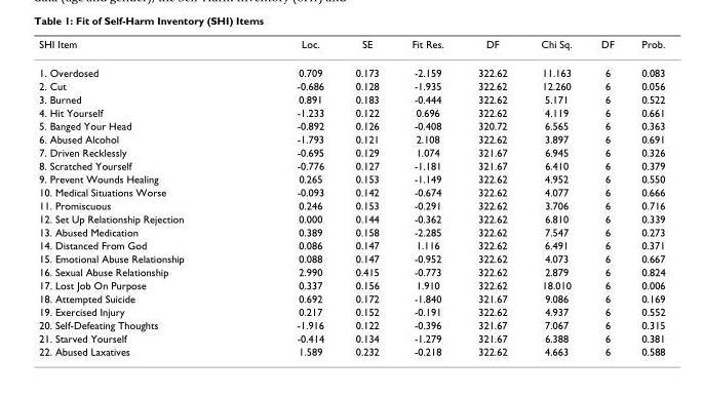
<table><thead><tr><td>SHI Item</td><td>Loc.</td><td>SE</td><td>Fit Res.</td><td>DF</td><td>Chi Sq.</td><td>DF</td><td>Prob.</td></tr></thead><tbody><tr><td>1. Overdosed</td><td>0.709</td><td>0.173</td><td>-2.159</td><td>322.62</td><td>11.163</td><td>6</td><td>0.083</td></tr><tr><td>2. Cut</td><td>-0.686</td><td>0.128</td><td>-1.935</td><td>322.62</td><td>12.260</td><td>6</td><td>0.056</td></tr><tr><td>3. Burned</td><td>0.891</td><td>0.183</td><td>-0.444</td><td>322.62</td><td>5.171</td><td>6</td><td>0.522</td></tr><tr><td>4. Hit Yourself</td><td>-1.233</td><td>0.122</td><td>0.696</td><td>322.62</td><td>4.119</td><td>6</td><td>0.661</td></tr><tr><td>5. Banged Your Head</td><td>-0.892</td><td>0.126</td><td>-0.408</td><td>320.72</td><td>6.565</td><td>6</td><td>0.363</td></tr><tr><td>6. Abused Alcohol</td><td>-1.793</td><td>0.121</td><td>2.108</td><td>322.62</td><td>3.897</td><td>6</td><td>0.691</td></tr><tr><td>7. Driven Recklessly</td><td>-0.695</td><td>0.129</td><td>1.074</td><td>321.67</td><td>6.945</td><td>6</td><td>0.326</td></tr><tr><td>8. Scratched Yourself</td><td>-0.776</td><td>0.127</td><td>-1.181</td><td>321.67</td><td>6.410</td><td>6</td><td>0.379</td></tr><tr><td>9. Prevent Wounds Healing</td><td>0.265</td><td>0.153</td><td>-1.149</td><td>322.62</td><td>4.952</td><td>6</td><td>0.550</td></tr><tr><td>10. Medical Situations Worse</td><td>-0.093</td><td>0.142</td><td>-0.674</td><td>322.62</td><td>4.077</td><td>6</td><td>0.666</td></tr><tr><td>11. Promiscuous</td><td>0.246</td><td>0.153</td><td>-0.291</td><td>322.62</td><td>3.706</td><td>6</td><td>0.716</td></tr><tr><td>12. Set Up Relationship Rejection</td><td>0.000</td><td>0.144</td><td>-0.362</td><td>322.62</td><td>6.810</td><td>6</td><td>0.339</td></tr><tr><td>13. Abused Medication</td><td>0.389</td><td>0.158</td><td>-2.285</td><td>322.62</td><td>7.547</td><td>6</td><td>0.273</td></tr><tr><td>14. Distanced From God</td><td>0.086</td><td>0.147</td><td>1.116</td><td>322.62</td><td>6.491</td><td>6</td><td>0.371</td></tr><tr><td>15. Emotional Abuse Relationship</td><td>0.088</td><td>0.147</td><td>-0.952</td><td>322.62</td><td>4.073</td><td>6</td><td>0.667</td></tr><tr><td>16. Sexual Abuse Relationship</td><td>2.990</td><td>0.415</td><td>-0.773</td><td>322.62</td><td>2.879</td><td>6</td><td>0.824</td></tr><tr><td>17. Lost Job On Purpose</td><td>0.337</td><td>0.156</td><td>1.910</td><td>322.62</td><td>18.010</td><td>6</td><td>0.006</td></tr><tr><td>18. Attempted Suicide</td><td>0.692</td><td>0.172</td><td>-1.840</td><td>321.67</td><td>9.086</td><td>6</td><td>0.169</td></tr><tr><td>19. Exercised Injury</td><td>0.217</td><td>0.152</td><td>-0.191</td><td>322.62</td><td>4.937</td><td>6</td><td>0.552</td></tr><tr><td>20. Self-Defeating Thoughts</td><td>-1.916</td><td>0.122</td><td>-0.396</td><td>321.67</td><td>7.067</td><td>6</td><td>0.315</td></tr><tr><td>21. Starved Yourself</td><td>-0.414</td><td>0.134</td><td>-1.279</td><td>321.67</td><td>6.388</td><td>6</td><td>0.381</td></tr><tr><td>22. Abused Laxatives</td><td>1.589</td><td>0.232</td><td>-0.218</td><td>322.62</td><td>4.663</td><td>6</td><td>0.588</td></tr></tbody></table>